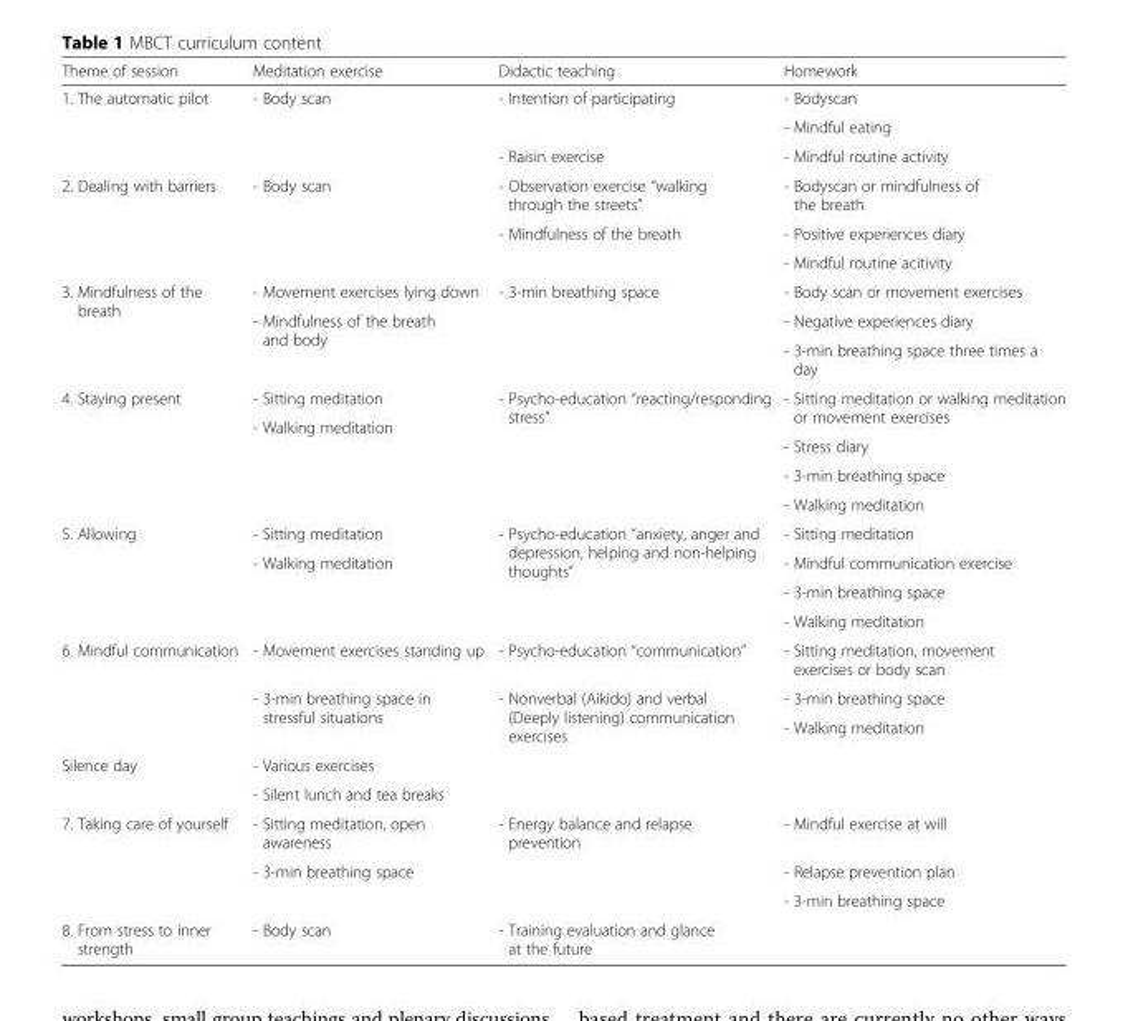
<table><thead><tr><td>Theme of session</td><td>Meditation exercise</td><td>Didactic teaching</td><td>Homework</td></tr></thead><tbody><tr><td rowspan="3">1. The automatic pilot</td><td rowspan="3">- Body scan</td><td rowspan="2">- Intention of participating</td><td>- Bodyscan</td></tr><tr><td>- Mindful eating</td></tr><tr><td>- Raisin exercise</td><td>- Mindful routine activity</td></tr><tr><td rowspan="3">2. Dealing with barriers</td><td rowspan="3">- Body scan</td><td>- Observation exercise “walking through the streets”</td><td>- Bodyscan or mindfulness of the breath</td></tr><tr><td rowspan="2">- Mindfulness of the breath</td><td>- Positive experiences diary</td></tr><tr><td>- Mindful routine acitivity</td></tr><tr><td rowspan="3">3. Mindfulness of the breath</td><td>- Movement exercises lying down</td><td rowspan="3">- 3-min breathing space</td><td>- Body scan or movement exercises</td></tr><tr><td rowspan="2">- Mindfulness of the breath and body</td><td>- Negative experiences diary</td></tr><tr><td>- 3-min breathing space three times a day</td></tr><tr><td rowspan="5">4. Staying present</td><td>- Sitting meditation</td><td rowspan="5">- Psycho-education “reacting/responding stress”</td><td rowspan="2">- Sitting meditation or walking meditation or movement exercises</td></tr><tr><td rowspan="4">- Walking meditation</td></tr><tr><td>- Stress diary</td></tr><tr><td>- 3-min breathing space</td></tr><tr><td>- Walking meditation</td></tr><tr><td rowspan="4">5. Allowing</td><td>- Sitting meditation</td><td rowspan="4">- Psycho-education “anxiety, anger and depression, helping and non-helping thoughts”</td><td>- Sitting meditation</td></tr><tr><td rowspan="3">- Walking meditation</td><td>- Mindful communication exercise</td></tr><tr><td>- 3-min breathing space</td></tr><tr><td>- Walking meditation</td></tr><tr><td rowspan="3">6. Mindful communication</td><td>- Movement exercises standing up</td><td>- Psycho-education “communication”</td><td>- Sitting meditation, movement exercises or body scan</td></tr><tr><td rowspan="2">- 3-min breathing space in stressful situations</td><td rowspan="2">- Nonverbal (Aikido) and verbal (Deeply listening) communication exercises</td><td>- 3-min breathing space</td></tr><tr><td>- Walking meditation</td></tr><tr><td rowspan="2">Silence day</td><td>- Various exercises</td><td rowspan="2"></td><td rowspan="2"></td></tr><tr><td>- Silent lunch and tea breaks</td></tr><tr><td rowspan="3">7. Taking care of yourself</td><td>- Sitting meditation, open awareness</td><td rowspan="3">- Energy balance and relapse prevention</td><td>- Mindful exercise at will</td></tr><tr><td rowspan="2">- 3-min breathing space</td><td>- Relapse prevention plan</td></tr><tr><td>- 3-min breathing space</td></tr><tr><td>8. From stress to inner strength</td><td>- Body scan</td><td>- Training evaluation and glance at the future</td><td></td></tr></tbody></table>